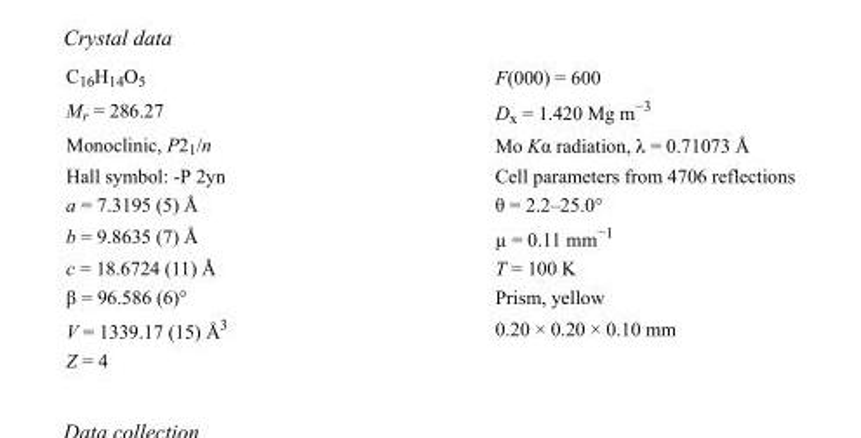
<table><tbody><tr><td>C<sub>16</sub>H<sub>14</sub>O<sub>5</sub></td><td>F(000) = 600</td></tr><tr><td>M<sub>r</sub> = 286.27</td><td>D<sub>x</sub> = 1.420 Mg m<sup>−3</sup></td></tr><tr><td>Monoclinic, P2<sub>1</sub>/n</td><td>Mo Kα radiation, λ = 0.71073 Å</td></tr><tr><td>Hall symbol: -P 2yn</td><td>Cell parameters from 4706 reflections</td></tr><tr><td>a = 7.3195 (5) Å</td><td>θ = 2.2–25.0°</td></tr><tr><td>b = 9.8635 (7) Å</td><td>µ = 0.11 mm<sup>−1</sup></td></tr><tr><td>c = 18.6724 (11) Å</td><td>T = 100 K</td></tr><tr><td>β = 96.586 (6)°</td><td>Prism, yellow</td></tr><tr><td>V = 1339.17 (15) Å<sup>3</sup></td><td>0.20 × 0.20 × 0.10 mm</td></tr><tr><td>Z = 4</td><td></td></tr></tbody></table>